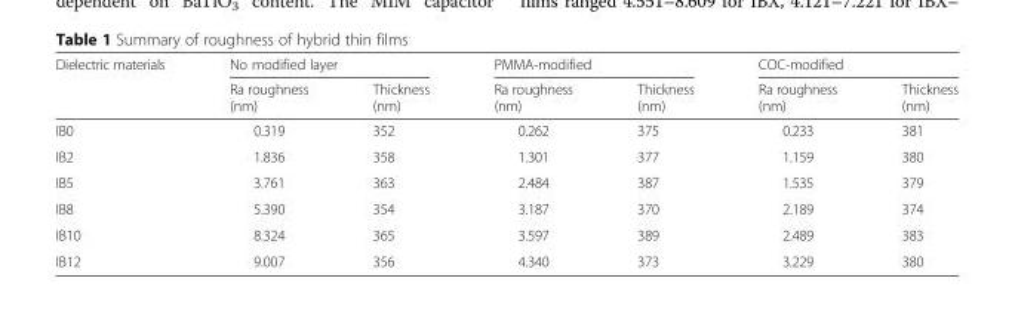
<table><thead><tr><td rowspan="2">Dielectric materials</td><td colspan="2">No modified layer</td><td colspan="2">PMMA-modified</td><td colspan="2">COC-modified</td></tr><tr><td>Ra roughness (nm)</td><td>Thickness (nm)</td><td>Ra roughness (nm)</td><td>Thickness (nm)</td><td>Ra roughness (nm)</td><td>Thickness (nm)</td></tr></thead><tbody><tr><td>IB0</td><td>0.319</td><td>352</td><td>0.262</td><td>375</td><td>0.233</td><td>381</td></tr><tr><td>IB2</td><td>1.836</td><td>358</td><td>1.301</td><td>377</td><td>1.159</td><td>380</td></tr><tr><td>IB5</td><td>3.761</td><td>363</td><td>2.484</td><td>387</td><td>1.535</td><td>379</td></tr><tr><td>IB8</td><td>5.390</td><td>354</td><td>3.187</td><td>370</td><td>2.189</td><td>374</td></tr><tr><td>IB10</td><td>8.324</td><td>365</td><td>3.597</td><td>389</td><td>2.489</td><td>383</td></tr><tr><td>IB12</td><td>9.007</td><td>356</td><td>4.340</td><td>373</td><td>3.229</td><td>380</td></tr></tbody></table>